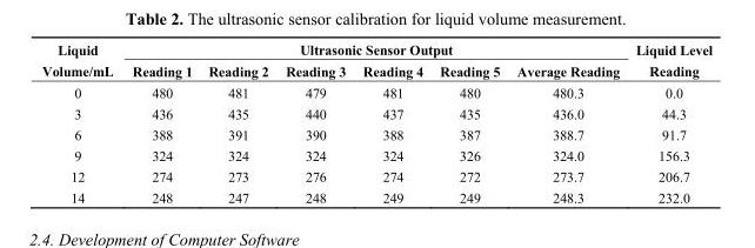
<table><thead><tr><td rowspan="2">Liquid Volume/mL</td><td colspan="6">Ultrasonic Sensor Output</td><td rowspan="2">Liquid Level Reading</td></tr><tr><td>Reading 1</td><td>Reading 2</td><td>Reading 3</td><td>Reading 4</td><td>Reading 5</td><td>Average Reading</td></tr></thead><tbody><tr><td>0</td><td>480</td><td>481</td><td>479</td><td>481</td><td>480</td><td>480.3</td><td>0.0</td></tr><tr><td>3</td><td>436</td><td>435</td><td>440</td><td>437</td><td>435</td><td>436.0</td><td>44.3</td></tr><tr><td>6</td><td>388</td><td>391</td><td>390</td><td>388</td><td>387</td><td>388.7</td><td>91.7</td></tr><tr><td>9</td><td>324</td><td>324</td><td>324</td><td>324</td><td>326</td><td>324.0</td><td>156.3</td></tr><tr><td>12</td><td>274</td><td>273</td><td>276</td><td>274</td><td>272</td><td>273.7</td><td>206.7</td></tr><tr><td>14</td><td>248</td><td>247</td><td>248</td><td>249</td><td>249</td><td>248.3</td><td>232.0</td></tr></tbody></table>